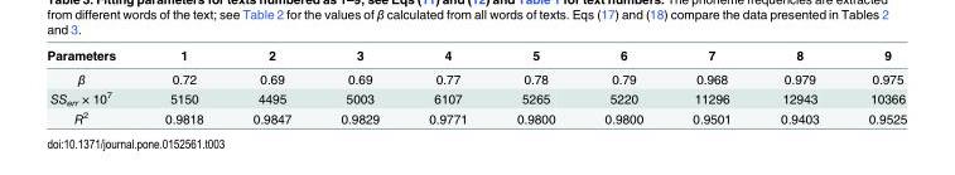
<table><thead><tr><td>Parameters</td><td>1</td><td>2</td><td>3</td><td>4</td><td>5</td><td>6</td><td>7</td><td>8</td><td>9</td></tr></thead><tbody><tr><td>β</td><td>0.72</td><td>0.69</td><td>0.69</td><td>0.77</td><td>0.78</td><td>0.79</td><td>0.968</td><td>0.979</td><td>0.975</td></tr><tr><td>SS<sub>err</sub> × 10<sup>7</sup></td><td>5150</td><td>4495</td><td>5003</td><td>6107</td><td>5265</td><td>5220</td><td>11296</td><td>12943</td><td>10366</td></tr><tr><td>R<sup>2</sup></td><td>0.9818</td><td>0.9847</td><td>0.9829</td><td>0.9771</td><td>0.9800</td><td>0.9800</td><td>0.9501</td><td>0.9403</td><td>0.9525</td></tr></tbody></table>